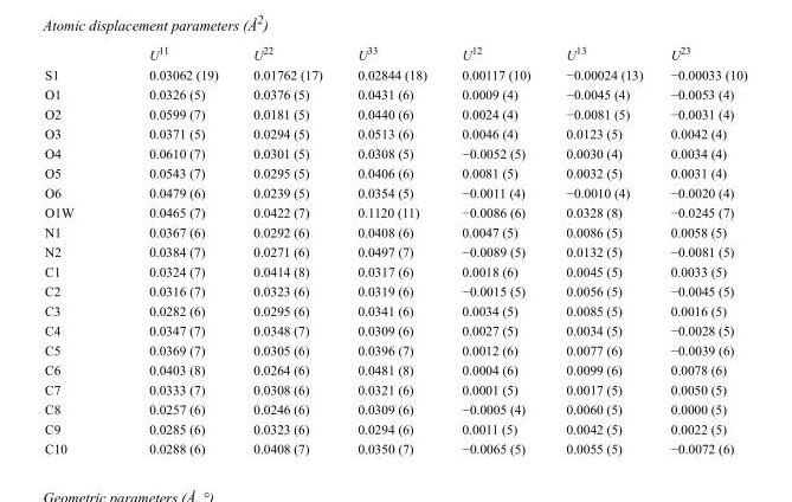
<table><thead><tr><td></td><td>U<sup>11</sup></td><td>U<sup>22</sup></td><td>U<sup>33</sup></td><td>U<sup>12</sup></td><td>U<sup>13</sup></td><td>U<sup>23</sup></td></tr></thead><tbody><tr><td>S1</td><td>0.03062 (19)</td><td>0.01762 (17)</td><td>0.02844 (18)</td><td>0.00117 (10)</td><td>−0.00024 (13)</td><td>−0.00033 (10)</td></tr><tr><td>O1</td><td>0.0326 (5)</td><td>0.0376 (5)</td><td>0.0431 (6)</td><td>0.0009 (4)</td><td>−0.0045 (4)</td><td>−0.0053 (4)</td></tr><tr><td>O2</td><td>0.0599 (7)</td><td>0.0181 (5)</td><td>0.0440 (6)</td><td>0.0024 (4)</td><td>−0.0081 (5)</td><td>−0.0031 (4)</td></tr><tr><td>O3</td><td>0.0371 (5)</td><td>0.0294 (5)</td><td>0.0513 (6)</td><td>0.0046 (4)</td><td>0.0123 (5)</td><td>0.0042 (4)</td></tr><tr><td>O4</td><td>0.0610 (7)</td><td>0.0301 (5)</td><td>0.0308 (5)</td><td>−0.0052 (5)</td><td>0.0030 (4)</td><td>0.0034 (4)</td></tr><tr><td>O5</td><td>0.0543 (7)</td><td>0.0295 (5)</td><td>0.0406 (6)</td><td>0.0081 (5)</td><td>0.0032 (5)</td><td>0.0031 (4)</td></tr><tr><td>O6</td><td>0.0479 (6)</td><td>0.0239 (5)</td><td>0.0354 (5)</td><td>−0.0011 (4)</td><td>−0.0010 (4)</td><td>−0.0020 (4)</td></tr><tr><td>O1W</td><td>0.0465 (7)</td><td>0.0422 (7)</td><td>0.1120 (11)</td><td>−0.0086 (6)</td><td>0.0328 (8)</td><td>−0.0245 (7)</td></tr><tr><td>N1</td><td>0.0367 (6)</td><td>0.0292 (6)</td><td>0.0408 (6)</td><td>0.0047 (5)</td><td>0.0086 (5)</td><td>0.0058 (5)</td></tr><tr><td>N2</td><td>0.0384 (7)</td><td>0.0271 (6)</td><td>0.0497 (7)</td><td>−0.0089 (5)</td><td>0.0132 (5)</td><td>−0.0081 (5)</td></tr><tr><td>C1</td><td>0.0324 (7)</td><td>0.0414 (8)</td><td>0.0317 (6)</td><td>0.0018 (6)</td><td>0.0045 (5)</td><td>0.0033 (5)</td></tr><tr><td>C2</td><td>0.0316 (7)</td><td>0.0323 (6)</td><td>0.0319 (6)</td><td>−0.0015 (5)</td><td>0.0056 (5)</td><td>−0.0045 (5)</td></tr><tr><td>C3</td><td>0.0282 (6)</td><td>0.0295 (6)</td><td>0.0341 (6)</td><td>0.0034 (5)</td><td>0.0085 (5)</td><td>0.0016 (5)</td></tr><tr><td>C4</td><td>0.0347 (7)</td><td>0.0348 (7)</td><td>0.0309 (6)</td><td>0.0027 (5)</td><td>0.0034 (5)</td><td>−0.0028 (5)</td></tr><tr><td>C5</td><td>0.0369 (7)</td><td>0.0305 (6)</td><td>0.0396 (7)</td><td>0.0012 (6)</td><td>0.0077 (6)</td><td>−0.0039 (6)</td></tr><tr><td>C6</td><td>0.0403 (8)</td><td>0.0264 (6)</td><td>0.0481 (8)</td><td>0.0004 (6)</td><td>0.0099 (6)</td><td>0.0078 (6)</td></tr><tr><td>C7</td><td>0.0333 (7)</td><td>0.0308 (6)</td><td>0.0321 (6)</td><td>0.0001 (5)</td><td>0.0017 (5)</td><td>0.0050 (5)</td></tr><tr><td>C8</td><td>0.0257 (6)</td><td>0.0246 (6)</td><td>0.0309 (6)</td><td>−0.0005 (4)</td><td>0.0060 (5)</td><td>0.0000 (5)</td></tr><tr><td>C9</td><td>0.0285 (6)</td><td>0.0323 (6)</td><td>0.0294 (6)</td><td>0.0011 (5)</td><td>0.0042 (5)</td><td>0.0022 (5)</td></tr><tr><td>C10</td><td>0.0288 (6)</td><td>0.0408 (7)</td><td>0.0350 (7)</td><td>−0.0065 (5)</td><td>0.0055 (5)</td><td>−0.0072 (6)</td></tr></tbody></table>